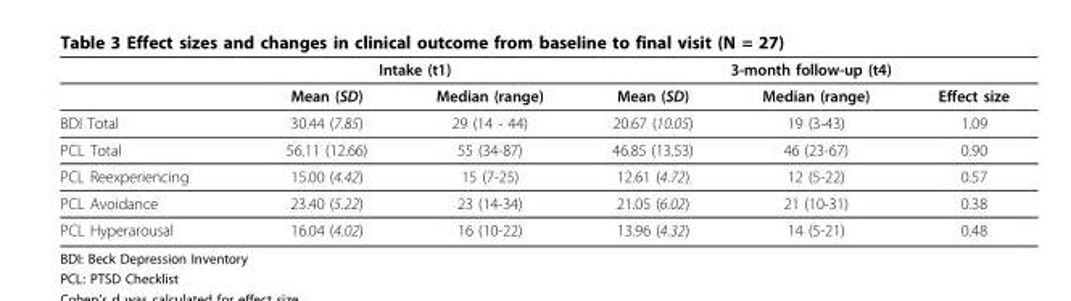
<table><thead><tr><td rowspan="2"></td><td colspan="2">Intake (t1)</td><td colspan="3">3-month follow-up (t4)</td></tr><tr><td>Mean (SD)</td><td>Median (range)</td><td>Mean (SD)</td><td>Median (range)</td><td>Effect size</td></tr></thead><tbody><tr><td>BDI Total</td><td>30.44 (7.85)</td><td>29 (14 - 44)</td><td>20.67 (10.05)</td><td>19 (3-43)</td><td>1.09</td></tr><tr><td>PCL Total</td><td>56.11 (12.66)</td><td>55 (34-87)</td><td>46.85 (13.53)</td><td>46 (23-67)</td><td>0.90</td></tr><tr><td>PCL Reexperiencing</td><td>15.00 (4.42)</td><td>15 (7-25)</td><td>12.61 (4.72)</td><td>12 (5-22)</td><td>0.57</td></tr><tr><td>PCL Avoidance</td><td>23.40 (5.22)</td><td>23 (14-34)</td><td>21.05 (6.02)</td><td>21 (10-31)</td><td>0.38</td></tr><tr><td>PCL Hyperarousal</td><td>16.04 (4.02)</td><td>16 (10-22)</td><td>13.96 (4.32)</td><td>14 (5-21)</td><td>0.48</td></tr></tbody></table>